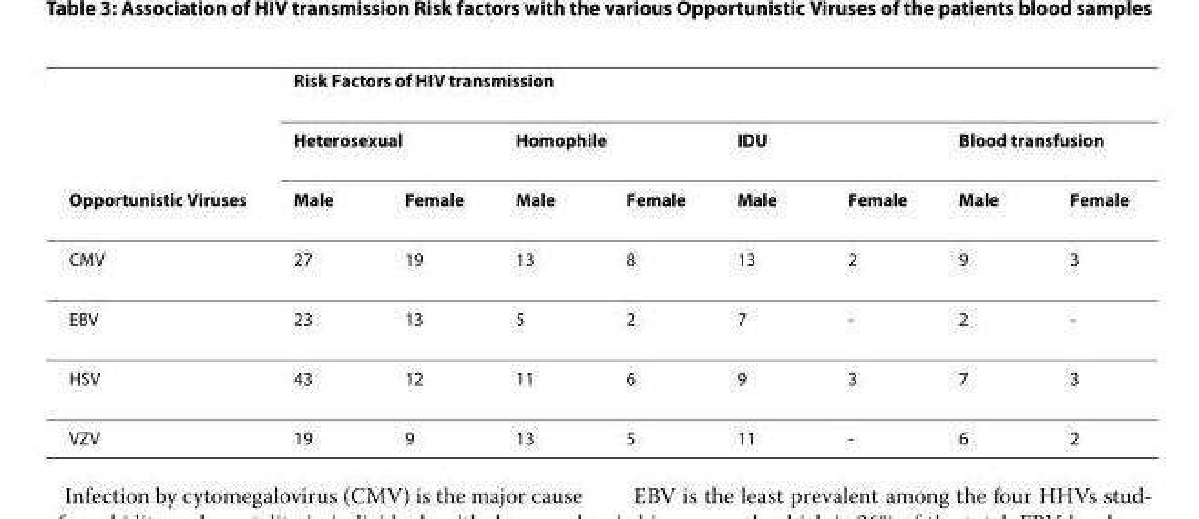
<table><thead><tr><td rowspan="3">Opportunistic Viruses</td><td colspan="8">Risk Factors of HIV transmission</td></tr><tr><td colspan="2">Heterosexual</td><td colspan="2">Homophile</td><td colspan="2">IDU</td><td colspan="2">Blood transfusion</td></tr><tr><td>Male</td><td>Female</td><td>Male</td><td>Female</td><td>Male</td><td>Female</td><td>Male</td><td>Female</td></tr></thead><tbody><tr><td>CMV</td><td>27</td><td>19</td><td>13</td><td>8</td><td>13</td><td>2</td><td>9</td><td>3</td></tr><tr><td>EBV</td><td>23</td><td>13</td><td>5</td><td>2</td><td>7</td><td>-</td><td>2</td><td>-</td></tr><tr><td>HSV</td><td>43</td><td>12</td><td>11</td><td>6</td><td>9</td><td>3</td><td>7</td><td>3</td></tr><tr><td>VZV</td><td>19</td><td>9</td><td>13</td><td>5</td><td>11</td><td>-</td><td>6</td><td>2</td></tr></tbody></table>